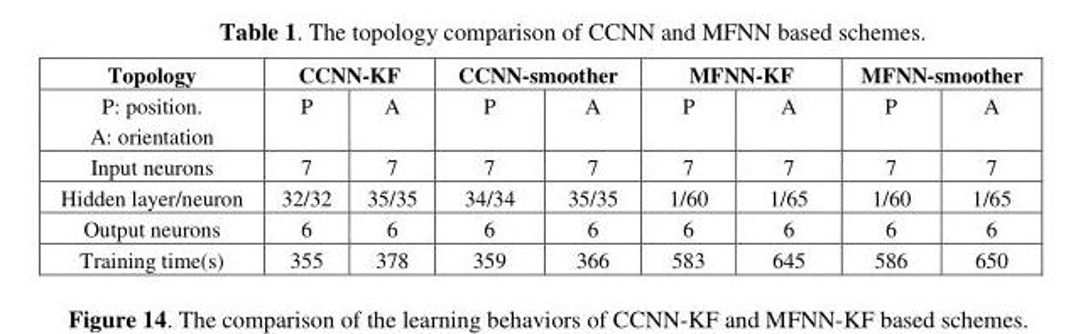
<table><thead><tr><td rowspan="2">Topology P: position. A: orientation</td><td colspan="2">CCNN-KF</td><td colspan="2">CCNN-smoother</td><td colspan="2">MFNN-KF</td><td colspan="2">MFNN-smoother</td></tr><tr><td>P</td><td>A</td><td>P</td><td>A</td><td>P</td><td>A</td><td>P</td><td>A</td></tr></thead><tbody><tr><td>Input neurons</td><td>7</td><td>7</td><td>7</td><td>7</td><td>7</td><td>7</td><td>7</td><td>7</td></tr><tr><td>Hidden layer/neuron</td><td>32/32</td><td>35/35</td><td>34/34</td><td>35/35</td><td>1/60</td><td>1/65</td><td>1/60</td><td>1/65</td></tr><tr><td>Output neurons</td><td>6</td><td>6</td><td>6</td><td>6</td><td>6</td><td>6</td><td>6</td><td>6</td></tr><tr><td>Training time(s)</td><td>355</td><td>378</td><td>359</td><td>366</td><td>583</td><td>645</td><td>586</td><td>650</td></tr></tbody></table>